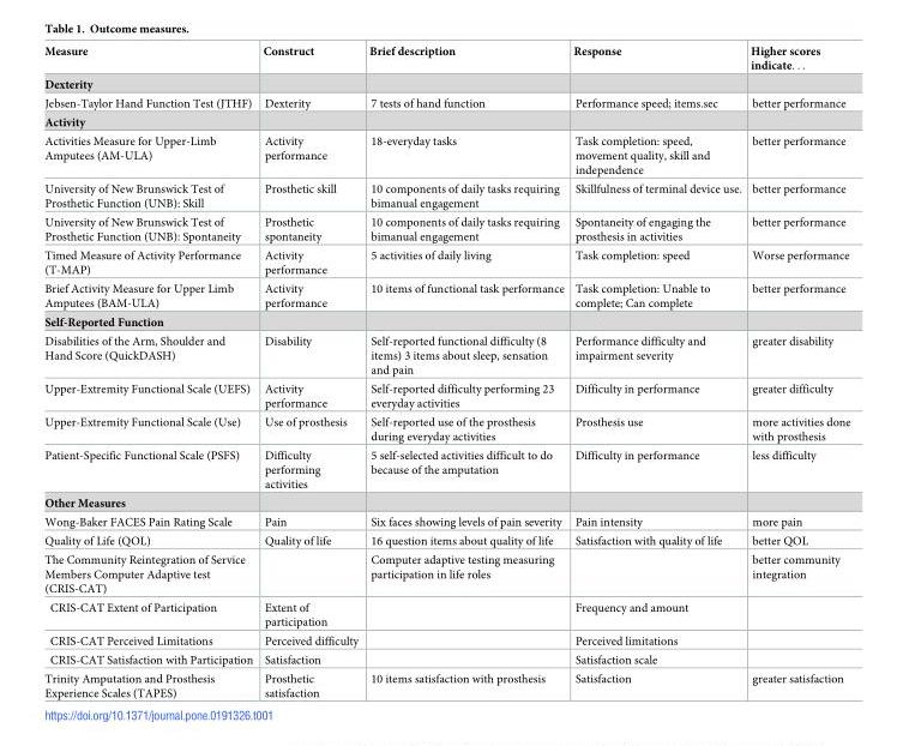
<table><thead><tr><td>Measure</td><td>Construct</td><td>Brief description</td><td>Response</td><td>Higher scores indicate. . .</td></tr></thead><tbody><tr><td colspan="5">Dexterity</td></tr><tr><td>Jebsen-Taylor Hand Function Test (JTHF)</td><td>Dexterity</td><td>7 tests of hand function</td><td>Performance speed; items.sec</td><td>better performance</td></tr><tr><td colspan="5">Activity</td></tr><tr><td>Activities Measure for Upper-Limb Amputees (AM-ULA)</td><td>Activity performance</td><td>18-everyday tasks</td><td>Task completion: speed, movement quality, skill and independence</td><td>better performance</td></tr><tr><td>University of New Brunswick Test of Prosthetic Function (UNB): Skill</td><td>Prosthetic skill</td><td>10 components of daily tasks requiring bimanual engagement</td><td>Skillfulness of terminal device use.</td><td>better performance</td></tr><tr><td>University of New Brunswick Test of Prosthetic Function (UNB): Spontaneity</td><td>Prosthetic spontaneity</td><td>10 components of daily tasks requiring bimanual engagement</td><td>Spontaneity of engaging the prosthesis in activities</td><td>better performance</td></tr><tr><td>Timed Measure of Activity Performance (T-MAP)</td><td>Activity performance</td><td>5 activities of daily living</td><td>Task completion: speed</td><td>Worse performance</td></tr><tr><td>Brief Activity Measure for Upper Limb Amputees (BAM-ULA)</td><td>Activity performance</td><td>10 items of functional task performance</td><td>Task completion: Unable to complete; Can complete</td><td>better performance</td></tr><tr><td colspan="5">Self-Reported Function</td></tr><tr><td>Disabilities of the Arm, Shoulder and Hand Score (QuickDASH)</td><td>Disability</td><td>Self-reported functional difficulty (8 items) 3 items about sleep, sensation and pain</td><td>Performance difficulty and impairment severity</td><td>greater disability</td></tr><tr><td>Upper-Extremity Functional Scale (UEFS)</td><td>Activity performance</td><td>Self-reported difficulty performing 23 everyday activities</td><td>Difficulty in performance</td><td>greater difficulty</td></tr><tr><td>Upper-Extremity Functional Scale (Use)</td><td>Use of prosthesis</td><td>Self-reported use of the prosthesis during everyday activities</td><td>Prosthesis use</td><td>more activities done with prosthesis</td></tr><tr><td>Patient-Specific Functional Scale (PSFS)</td><td>Difficulty performing activities</td><td>5 self-selected activities difficult to do because of the amputation</td><td>Difficulty in performance</td><td>less difficulty</td></tr><tr><td colspan="5">Other Measures</td></tr><tr><td>Wong-Baker FACES Pain Rating Scale</td><td>Pain</td><td>Six faces showing levels of pain severity</td><td>Pain intensity</td><td>more pain</td></tr><tr><td>Quality of Life (QOL)</td><td>Quality of life</td><td>16 question items about quality of life</td><td>Satisfaction with quality of life</td><td>better QOL</td></tr><tr><td>The Community Reintegration of Service Members Computer Adaptive test (CRIS-CAT)</td><td></td><td>Computer adaptive testing measuring participation in life roles</td><td></td><td>better community integration</td></tr><tr><td>CRIS-CAT Extent of Participation</td><td>Extent of participation</td><td></td><td>Frequency and amount</td><td></td></tr><tr><td>CRIS-CAT Perceived Limitations</td><td>Perceived difficulty</td><td></td><td>Perceived limitations</td><td></td></tr><tr><td>CRIS-CAT Satisfaction with Participation</td><td>Satisfaction</td><td></td><td>Satisfaction scale</td><td></td></tr><tr><td>Trinity Amputation and Prosthesis Experience Scales (TAPES)</td><td>Prosthetic satisfaction</td><td>10 items satisfaction with prosthesis</td><td>Satisfaction</td><td>greater satisfaction</td></tr></tbody></table>